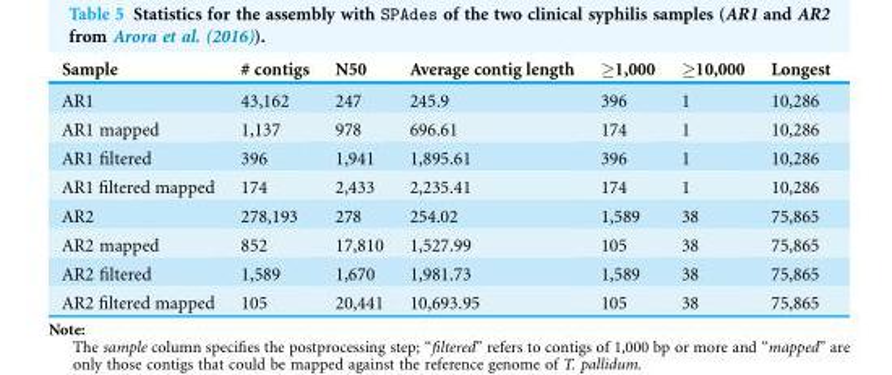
<table><thead><tr><td>Sample</td><td># contigs</td><td>N50</td><td>Average contig length</td><td>≥1,000</td><td>≥10,000</td><td>Longest</td></tr></thead><tbody><tr><td>AR1</td><td>43,162</td><td>247</td><td>245.9</td><td>396</td><td>1</td><td>10,286</td></tr><tr><td>AR1 mapped</td><td>1,137</td><td>978</td><td>696.61</td><td>174</td><td>1</td><td>10,286</td></tr><tr><td>AR1 filtered</td><td>396</td><td>1,941</td><td>1,895.61</td><td>396</td><td>1</td><td>10,286</td></tr><tr><td>AR1 filtered mapped</td><td>174</td><td>2,433</td><td>2,235.41</td><td>174</td><td>1</td><td>10,286</td></tr><tr><td>AR2</td><td>278,193</td><td>278</td><td>254.02</td><td>1,589</td><td>38</td><td>75,865</td></tr><tr><td>AR2 mapped</td><td>852</td><td>17,810</td><td>1,527.99</td><td>105</td><td>38</td><td>75,865</td></tr><tr><td>AR2 filtered</td><td>1,589</td><td>1,670</td><td>1,981.73</td><td>1,589</td><td>38</td><td>75,865</td></tr><tr><td>AR2 filtered mapped</td><td>105</td><td>20,441</td><td>10,693.95</td><td>105</td><td>38</td><td>75,865</td></tr></tbody></table>